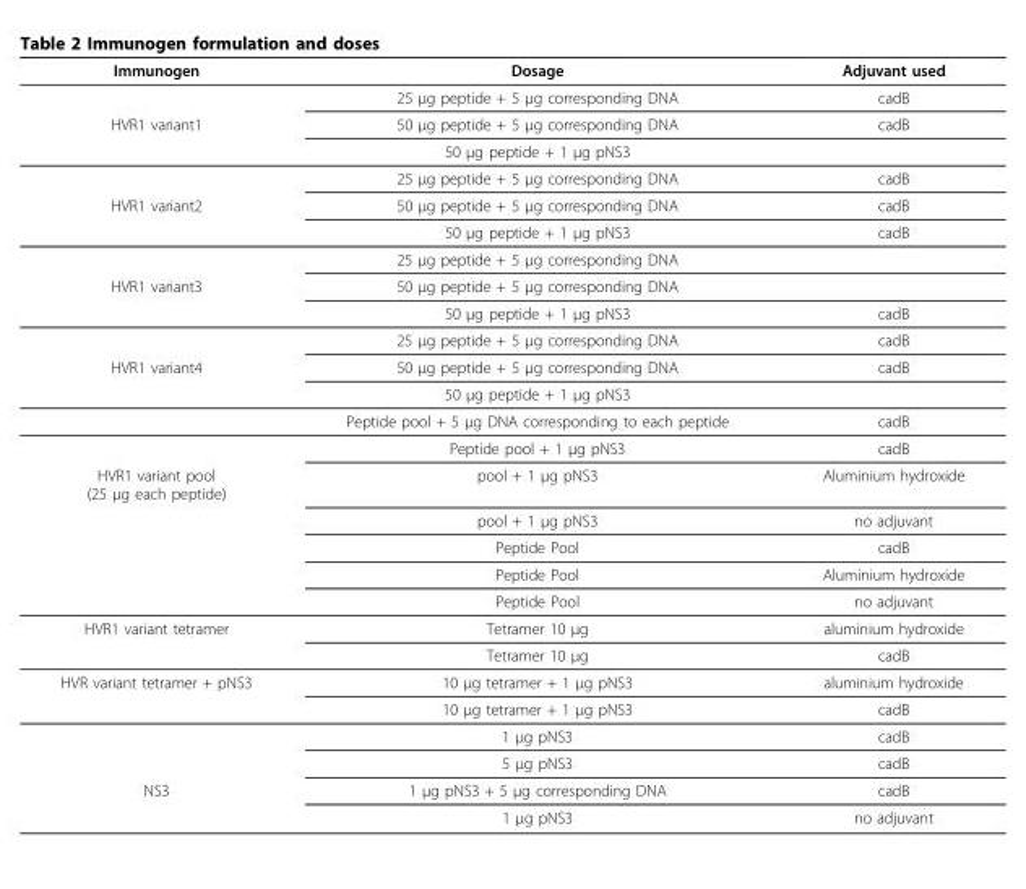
<table><thead><tr><td>Immunogen</td><td>Dosage</td><td>Adjuvant used</td></tr></thead><tbody><tr><td></td><td>25 μg peptide + 5 μg corresponding DNA</td><td>cadB</td></tr><tr><td rowspan="3">HVR1 variant1</td><td>50 μg peptide + 5 μg corresponding DNA</td><td>cadB</td></tr><tr><td>50 μg peptide + 1 μg pNS3</td><td></td></tr><tr><td>25 μg peptide + 5 μg corresponding DNA</td><td>cadB</td></tr><tr><td rowspan="3">HVR1 variant2</td><td>50 μg peptide + 5 μg corresponding DNA</td><td>cadB</td></tr><tr><td>50 μg peptide + 1 μg pNS3</td><td>cadB</td></tr><tr><td>25 μg peptide + 5 μg corresponding DNA</td><td></td></tr><tr><td rowspan="3">HVR1 variant3</td><td>50 μg peptide + 5 μg corresponding DNA</td><td></td></tr><tr><td>50 μg peptide + 1 μg pNS3</td><td>cadB</td></tr><tr><td>25 μg peptide + 5 μg corresponding DNA</td><td>cadB</td></tr><tr><td rowspan="4">HVR1 variant4</td><td>50 μg peptide + 5 μg corresponding DNA</td><td>cadB</td></tr><tr><td>50 μg peptide + 1 μg pNS3</td><td></td></tr><tr><td>Peptide pool + 5 μg DNA corresponding to each peptide</td><td>cadB</td></tr><tr><td>Peptide pool + 1 μg pNS3</td><td>cadB</td></tr><tr><td rowspan="5">HVR1 variant pool (25 μg each peptide)</td><td>pool + 1 μg pNS3</td><td>Aluminium hydroxide</td></tr><tr><td>pool + 1 μg pNS3</td><td>no adjuvant</td></tr><tr><td>Peptide Pool</td><td>cadB</td></tr><tr><td>Peptide Pool</td><td>Aluminium hydroxide</td></tr><tr><td>Peptide Pool</td><td>no adjuvant</td></tr><tr><td rowspan="2">HVR1 variant tetramer</td><td>Tetramer 10 μg</td><td>aluminium hydroxide</td></tr><tr><td>Tetramer 10 μg</td><td>cadB</td></tr><tr><td rowspan="4">HVR variant tetramer + pNS3</td><td>10 μg tetramer + 1 μg pNS3</td><td>aluminium hydroxide</td></tr><tr><td>10 μg tetramer + 1 μg pNS3</td><td>cadB</td></tr><tr><td>1 μg pNS3</td><td>cadB</td></tr><tr><td>5 μg pNS3</td><td>cadB</td></tr><tr><td rowspan="2">NS3</td><td>1 μg pNS3 + 5 μg corresponding DNA</td><td>cadB</td></tr><tr><td>1 μg pNS3</td><td>no adjuvant</td></tr></tbody></table>